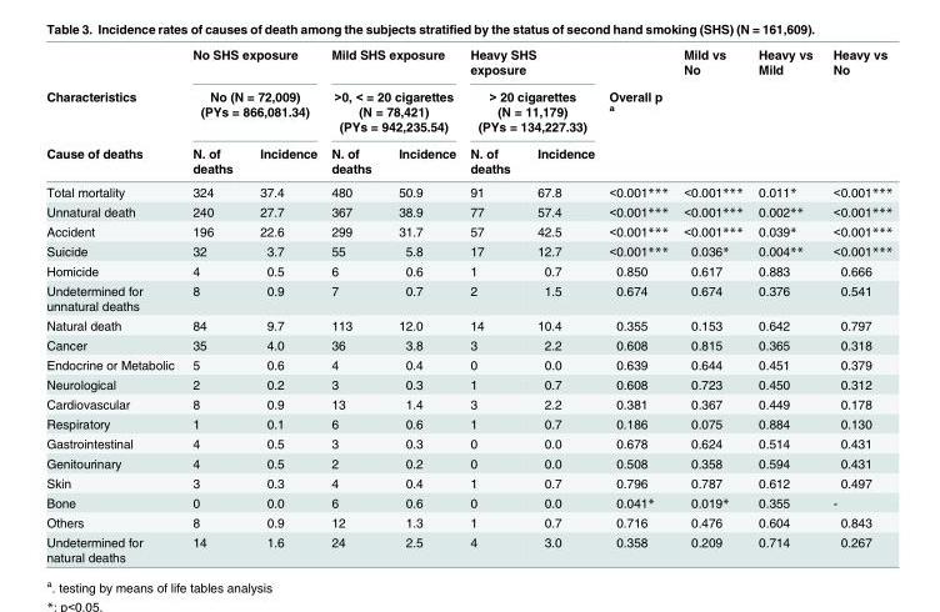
<table><thead><tr><td rowspan="3">Characteristics Cause of deaths</td><td rowspan="2" colspan="2">No SHS exposure No (N = 72,009) (PYs = 866,081.34)</td><td rowspan="2" colspan="2">Mild SHS exposure &gt;0, &lt; = 20 cigarettes (N = 78,421) (PYs = 942,235.54)</td><td rowspan="2" colspan="2">Heavy SHS exposure &gt; 20 cigarettes (N = 11,179) (PYs = 134,227.33)</td><td rowspan="3">Overall p <sup>a</sup></td><td rowspan="3">Mild vs No</td><td rowspan="3">Heavy vs Mild</td><td rowspan="3">Heavy vs No</td></tr><tr></tr><tr><td>N. of deaths</td><td>Incidence</td><td>N. of deaths</td><td>Incidence</td><td>N. of deaths</td><td>Incidence</td></tr></thead><tbody><tr><td>Total mortality</td><td>324</td><td>37.4</td><td>480</td><td>50.9</td><td>91</td><td>67.8</td><td>&lt;0.001***</td><td>&lt;0.001***</td><td>0.011*</td><td>&lt;0.001***</td></tr><tr><td>Unnatural death</td><td>240</td><td>27.7</td><td>367</td><td>38.9</td><td>77</td><td>57.4</td><td>&lt;0.001***</td><td>&lt;0.001***</td><td>0.002**</td><td>&lt;0.001***</td></tr><tr><td>Accident</td><td>196</td><td>22.6</td><td>299</td><td>31.7</td><td>57</td><td>42.5</td><td>&lt;0.001***</td><td>&lt;0.001***</td><td>0.039*</td><td>&lt;0.001***</td></tr><tr><td>Suicide</td><td>32</td><td>3.7</td><td>55</td><td>5.8</td><td>17</td><td>12.7</td><td>&lt;0.001***</td><td>0.036*</td><td>0.004**</td><td>&lt;0.001***</td></tr><tr><td>Homicide</td><td>4</td><td>0.5</td><td>6</td><td>0.6</td><td>1</td><td>0.7</td><td>0.850</td><td>0.617</td><td>0.883</td><td>0.666</td></tr><tr><td>Undetermined for unnatural deaths</td><td>8</td><td>0.9</td><td>7</td><td>0.7</td><td>2</td><td>1.5</td><td>0.674</td><td>0.674</td><td>0.376</td><td>0.541</td></tr><tr><td>Natural death</td><td>84</td><td>9.7</td><td>113</td><td>12.0</td><td>14</td><td>10.4</td><td>0.355</td><td>0.153</td><td>0.642</td><td>0.797</td></tr><tr><td>Cancer</td><td>35</td><td>4.0</td><td>36</td><td>3.8</td><td>3</td><td>2.2</td><td>0.608</td><td>0.815</td><td>0.365</td><td>0.318</td></tr><tr><td>Endocrine or Metabolic</td><td>5</td><td>0.6</td><td>4</td><td>0.4</td><td>0</td><td>0.0</td><td>0.639</td><td>0.644</td><td>0.451</td><td>0.379</td></tr><tr><td>Neurological</td><td>2</td><td>0.2</td><td>3</td><td>0.3</td><td>1</td><td>0.7</td><td>0.608</td><td>0.723</td><td>0.450</td><td>0.312</td></tr><tr><td>Cardiovascular</td><td>8</td><td>0.9</td><td>13</td><td>1.4</td><td>3</td><td>2.2</td><td>0.381</td><td>0.367</td><td>0.449</td><td>0.178</td></tr><tr><td>Respiratory</td><td>1</td><td>0.1</td><td>6</td><td>0.6</td><td>1</td><td>0.7</td><td>0.186</td><td>0.075</td><td>0.884</td><td>0.130</td></tr><tr><td>Gastrointestinal</td><td>4</td><td>0.5</td><td>3</td><td>0.3</td><td>0</td><td>0.0</td><td>0.678</td><td>0.624</td><td>0.514</td><td>0.431</td></tr><tr><td>Genitourinary</td><td>4</td><td>0.5</td><td>2</td><td>0.2</td><td>0</td><td>0.0</td><td>0.508</td><td>0.358</td><td>0.594</td><td>0.431</td></tr><tr><td>Skin</td><td>3</td><td>0.3</td><td>4</td><td>0.4</td><td>1</td><td>0.7</td><td>0.796</td><td>0.787</td><td>0.612</td><td>0.497</td></tr><tr><td>Bone</td><td>0</td><td>0.0</td><td>6</td><td>0.6</td><td>0</td><td>0.0</td><td>0.041*</td><td>0.019*</td><td>0.355</td><td>-</td></tr><tr><td>Others</td><td>8</td><td>0.9</td><td>12</td><td>1.3</td><td>1</td><td>0.7</td><td>0.716</td><td>0.476</td><td>0.604</td><td>0.843</td></tr><tr><td>Undetermined for natural deaths</td><td>14</td><td>1.6</td><td>24</td><td>2.5</td><td>4</td><td>3.0</td><td>0.358</td><td>0.209</td><td>0.714</td><td>0.267</td></tr></tbody></table>